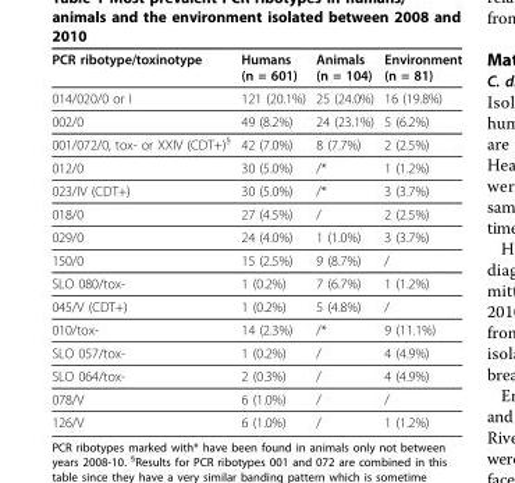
<table><thead><tr><td>PCR ribotype/toxinotype</td><td>Humans (n = 601)</td><td>Animals (n = 104)</td><td>Environment (n = 81)</td></tr></thead><tbody><tr><td>014/020/0 or I</td><td>121 (20.1%)</td><td>25 (24.0%)</td><td>16 (19.8%)</td></tr><tr><td>002/0</td><td>49 (8.2%)</td><td>24 (23.1%)</td><td>5 (6.2%)</td></tr><tr><td>001/072/0, tox- or XXIV (CDT+)<sup>§</sup></td><td>42 (7.0%)</td><td>8 (7.7%)</td><td>2 (2.5%)</td></tr><tr><td>012/0</td><td>30 (5.0%)</td><td>/*</td><td>1 (1.2%)</td></tr><tr><td>023/IV (CDT+)</td><td>30 (5.0%)</td><td>/*</td><td>3 (3.7%)</td></tr><tr><td>018/0</td><td>27 (4.5%)</td><td>/</td><td>2 (2.5%)</td></tr><tr><td>029/0</td><td>24 (4.0%)</td><td>1 (1.0%)</td><td>3 (3.7%)</td></tr><tr><td>150/0</td><td>15 (2.5%)</td><td>9 (8.7%)</td><td>/</td></tr><tr><td>SLO 080/tox-</td><td>1 (0.2%)</td><td>7 (6.7%)</td><td>1 (1.2%)</td></tr><tr><td>045/V (CDT+)</td><td>1 (0.2%)</td><td>5 (4.8%)</td><td>/</td></tr><tr><td>010/tox-</td><td>14 (2.3%)</td><td>/*</td><td>9 (11.1%)</td></tr><tr><td>SLO 057/tox-</td><td>1 (0.2%)</td><td>/</td><td>4 (4.9%)</td></tr><tr><td>SLO 064/tox-</td><td>2 (0.3%)</td><td>/</td><td>4 (4.9%)</td></tr><tr><td>078/V</td><td>6 (1.0%)</td><td>/</td><td>/</td></tr><tr><td>126/V</td><td>6 (1.0%)</td><td>/</td><td>1 (1.2%)</td></tr></tbody></table>